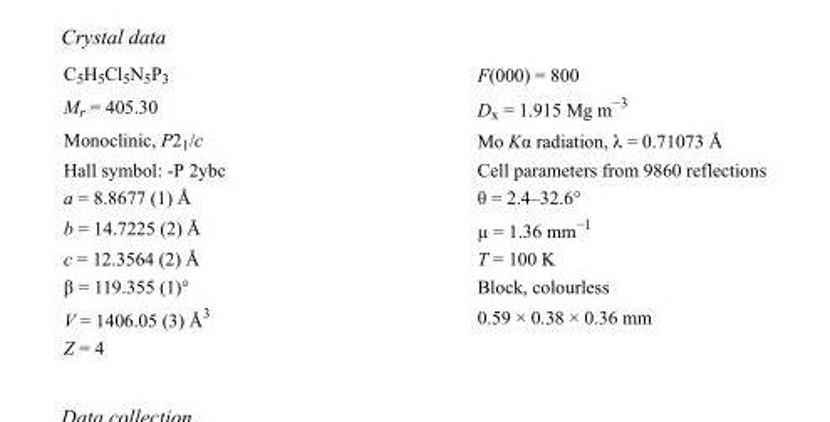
<table><tbody><tr><td>C<sub>5</sub>H<sub>5</sub>Cl<sub>5</sub>N<sub>5</sub>P<sub>3</sub></td><td>F(000) = 800</td></tr><tr><td>M<sub>r</sub> = 405.30</td><td>D<sub>x</sub> = 1.915 Mg m<sup>−3</sup></td></tr><tr><td>Monoclinic, P2<sub>1</sub>/c</td><td>Mo Kα radiation, λ = 0.71073 Å</td></tr><tr><td>Hall symbol: -P 2ybc</td><td>Cell parameters from 9860 reflections</td></tr><tr><td>a = 8.8677 (1) Å</td><td>θ = 2.4–32.6°</td></tr><tr><td>b = 14.7225 (2) Å</td><td>µ = 1.36 mm<sup>−1</sup></td></tr><tr><td>c = 12.3564 (2) Å</td><td>T = 100 K</td></tr><tr><td>β = 119.355 (1)°</td><td>Block, colourless</td></tr><tr><td>V = 1406.05 (3) Å<sup>3</sup></td><td>0.59 × 0.38 × 0.36 mm</td></tr><tr><td>Z = 4</td><td></td></tr></tbody></table>